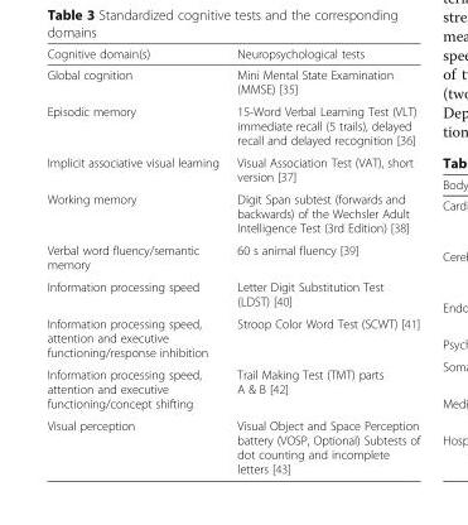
<table><thead><tr><td>Cognitive domain(s)</td><td>Neuropsychological tests</td></tr></thead><tbody><tr><td>Global cognition</td><td>Mini Mental State Examination (MMSE) [35]</td></tr><tr><td>Episodic memory</td><td>15-Word Verbal Learning Test (VLT) immediate recall (5 trails), delayed recall and delayed recognition [36]</td></tr><tr><td>Implicit associative visual learning</td><td>Visual Association Test (VAT), short version [37]</td></tr><tr><td>Working memory</td><td>Digit Span subtest (forwards and backwards) of the Wechsler Adult Intelligence Test (3rd Edition) [38]</td></tr><tr><td>Verbal word fluency/semantic memory</td><td>60 s animal fluency [39]</td></tr><tr><td>Information processing speed</td><td>Letter Digit Substitution Test (LDST) [40]</td></tr><tr><td>Information processing speed, attention and executive functioning/response inhibition</td><td>Stroop Color Word Test (SCWT) [41]</td></tr><tr><td>Information processing speed, attention and executive functioning/concept shifting</td><td>Trail Making Test (TMT) parts A &amp; B [42]</td></tr><tr><td>Visual perception</td><td>Visual Object and Space Perception battery (VOSP, Optional) Subtests of dot counting and incomplete letters [43]</td></tr></tbody></table>